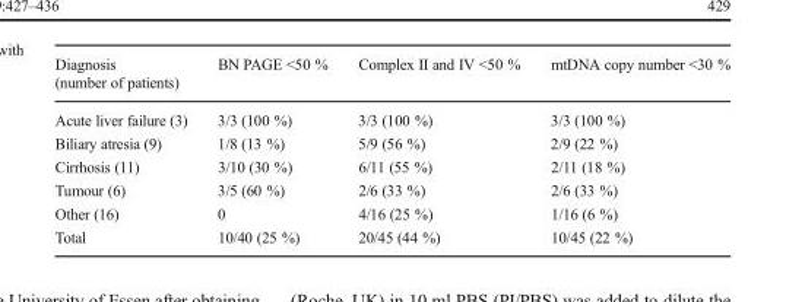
<table><thead><tr><td>Diagnosis (number of patients)</td><td>BN PAGE &lt;50 %</td><td>Complex II and IV &lt;50 %</td><td>mtDNA copy number &lt;30 %</td></tr></thead><tbody><tr><td>Acute liver failure (3)</td><td>3/3 (100 %)</td><td>3/3 (100 %)</td><td>3/3 (100 %)</td></tr><tr><td>Biliary atresia (9)</td><td>1/8 (13 %)</td><td>5/9 (56 %)</td><td>2/9 (22 %)</td></tr><tr><td>Cirrhosis (11)</td><td>3/10 (30 %)</td><td>6/11 (55 %)</td><td>2/11 (18 %)</td></tr><tr><td>Tumour (6)</td><td>3/5 (60 %)</td><td>2/6 (33 %)</td><td>2/6 (33 %)</td></tr><tr><td>Other (16)</td><td>0</td><td>4/16 (25 %)</td><td>1/16 (6 %)</td></tr><tr><td>Total</td><td>10/40 (25 %)</td><td>20/45 (44 %)</td><td>10/45 (22 %)</td></tr></tbody></table>